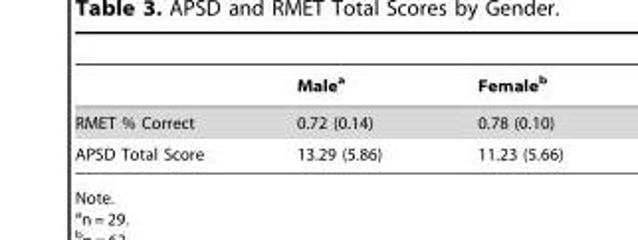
<table><thead><tr><td></td><td>Male<sup>a</sup></td><td>Female<sup>b</sup></td></tr></thead><tbody><tr><td>RMET % Correct</td><td>0.72 (0.14)</td><td>0.78 (0.10)</td></tr><tr><td>APSD Total Score</td><td>13.29 (5.86)</td><td>11.23 (5.66)</td></tr></tbody></table>